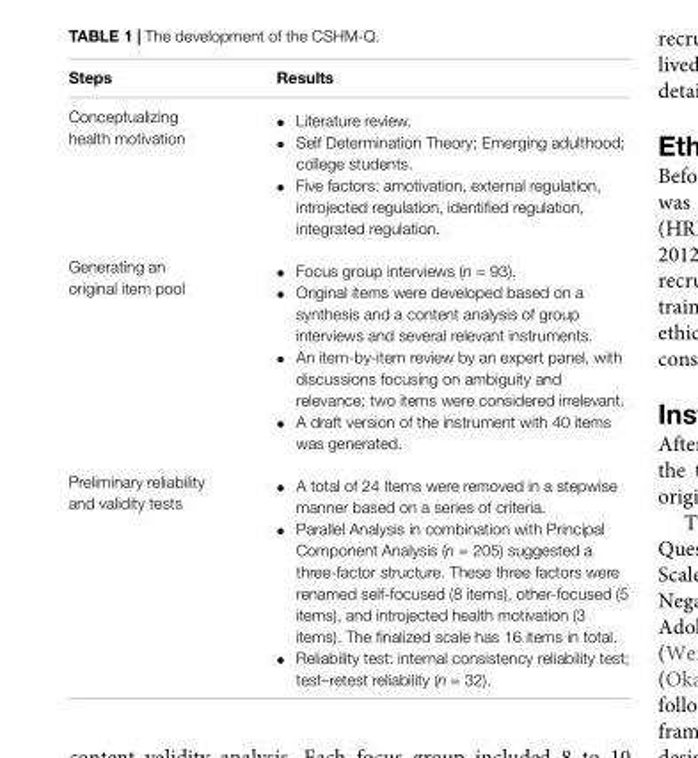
<table><thead><tr><td>Steps</td><td>Results</td></tr></thead><tbody><tr><td>Conceptualizing health motivation</td><td>• Literature review. • Self Determination Theory; Emerging adulthood; college students. • Five factors: amotivation, external regulation, introjected regulation, identified regulation, integrated regulation.</td></tr><tr><td>Generating an original item pool</td><td>• Focus group interviews (n = 93). • Original items were developed based on a synthesis and a content analysis of group interviews and several relevant instruments. • An item-by-item review by an expert panel, with discussions focusing on ambiguity and relevance; two items were considered irrelevant. • A draft version of the instrument with 40 items was generated.</td></tr><tr><td>Preliminary reliability and validity tests</td><td>• A total of 24 Items were removed in a stepwise manner based on a series of criteria. • Parallel Analysis in combination with Principal Component Analysis (n = 205) suggested a three-factor structure. These three factors were renamed self-focused (8 items), other-focused (5 items), and introjected health motivation (3 items). The finalized scale has 16 items in total. • Reliability test: internal consistency reliability test; test–retest reliability (n = 32).</td></tr></tbody></table>